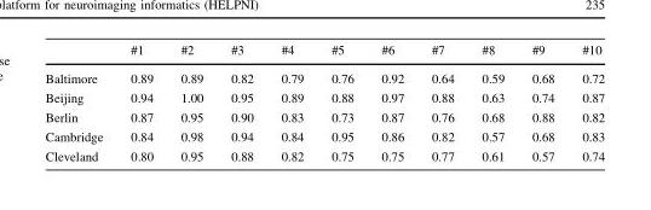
<table><thead><tr><td></td><td>#1</td><td>#2</td><td>#3</td><td>#4</td><td>#5</td><td>#6</td><td>#7</td><td>#8</td><td>#9</td><td>#10</td></tr></thead><tbody><tr><td>Baltimore</td><td>0.89</td><td>0.89</td><td>0.82</td><td>0.79</td><td>0.76</td><td>0.92</td><td>0.64</td><td>0.59</td><td>0.68</td><td>0.72</td></tr><tr><td>Beijing</td><td>0.94</td><td>1.00</td><td>0.95</td><td>0.89</td><td>0.88</td><td>0.97</td><td>0.88</td><td>0.63</td><td>0.74</td><td>0.87</td></tr><tr><td>Berlin</td><td>0.87</td><td>0.95</td><td>0.90</td><td>0.83</td><td>0.73</td><td>0.87</td><td>0.76</td><td>0.68</td><td>0.88</td><td>0.82</td></tr><tr><td>Cambridge</td><td>0.84</td><td>0.98</td><td>0.94</td><td>0.84</td><td>0.95</td><td>0.86</td><td>0.82</td><td>0.57</td><td>0.68</td><td>0.83</td></tr><tr><td>Cleveland</td><td>0.80</td><td>0.95</td><td>0.88</td><td>0.82</td><td>0.75</td><td>0.75</td><td>0.77</td><td>0.61</td><td>0.57</td><td>0.74</td></tr></tbody></table>